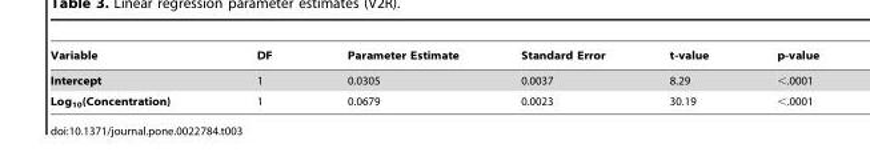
<table><thead><tr><td>Variable</td><td>DF</td><td>Parameter Estimate</td><td>Standard Error</td><td>t-value</td><td>p-value</td></tr></thead><tbody><tr><td>Intercept</td><td>1</td><td>0.0305</td><td>0.0037</td><td>8.29</td><td>&lt;.0001</td></tr><tr><td>Log<sub>10</sub>(Concentration)</td><td>1</td><td>0.0679</td><td>0.0023</td><td>30.19</td><td>&lt;.0001</td></tr></tbody></table>